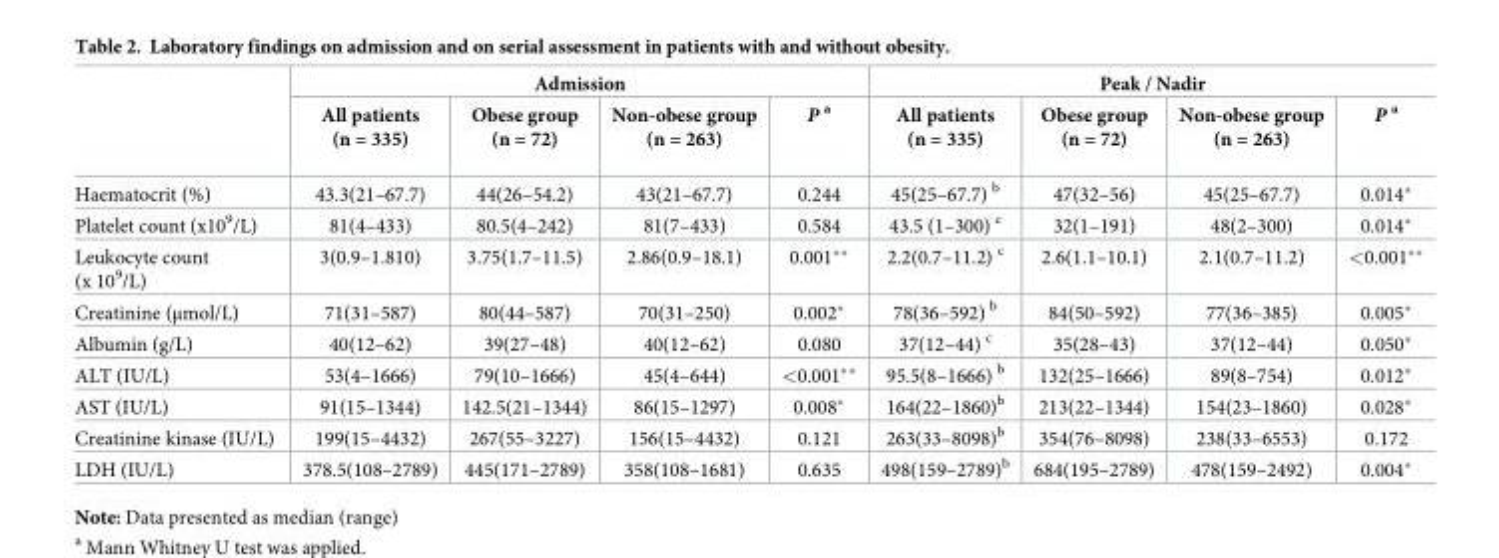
<table><thead><tr><td rowspan="2"></td><td colspan="4">Admission</td><td colspan="4">Peak / Nadir</td></tr><tr><td>All patients (n = 335)</td><td>Obese group (n = 72)</td><td>Non-obese group (n = 263)</td><td>P <sup>a</sup></td><td>All patients (n = 335)</td><td>Obese group (n = 72)</td><td>Non-obese group (n = 263)</td><td>P <sup>a</sup></td></tr></thead><tbody><tr><td>Haematocrit (%)</td><td>43.3(21–67.7)</td><td>44(26–54.2)</td><td>43(21–67.7)</td><td>0.244</td><td>45(25–67.7) <sup>b</sup></td><td>47(32–56)</td><td>45(25–67.7)</td><td>0.014*</td></tr><tr><td>Platelet count (x10<sup>9</sup>/L)</td><td>81(4–433)</td><td>80.5(4–242)</td><td>81(7–433)</td><td>0.584</td><td>43.5 (1–300) <sup>c</sup></td><td>32(1–191)</td><td>48(2–300)</td><td>0.014*</td></tr><tr><td>Leukocyte count (x 10<sup>9</sup>/L)</td><td>3(0.9–1.810)</td><td>3.75(1.7–11.5)</td><td>2.86(0.9–18.1)</td><td>0.001**</td><td>2.2(0.7–11.2) <sup>c</sup></td><td>2.6(1.1–10.1)</td><td>2.1(0.7–11.2)</td><td>&lt;0.001**</td></tr><tr><td>Creatinine (μmol/L)</td><td>71(31–587)</td><td>80(44–587)</td><td>70(31–250)</td><td>0.002*</td><td>78(36–592) <sup>b</sup></td><td>84(50–592)</td><td>77(36–385)</td><td>0.005*</td></tr><tr><td>Albumin (g/L)</td><td>40(12–62)</td><td>39(27–48)</td><td>40(12–62)</td><td>0.080</td><td>37(12–44) <sup>c</sup></td><td>35(28–43)</td><td>37(12–44)</td><td>0.050*</td></tr><tr><td>ALT (IU/L)</td><td>53(4–1666)</td><td>79(10–1666)</td><td>45(4–644)</td><td>&lt;0.001**</td><td>95.5(8–1666) <sup>b</sup></td><td>132(25–1666)</td><td>89(8–754)</td><td>0.012*</td></tr><tr><td>AST (IU/L)</td><td>91(15–1344)</td><td>142.5(21–1344)</td><td>86(15–1297)</td><td>0.008*</td><td>164(22–1860)<sup>b</sup></td><td>213(22–1344)</td><td>154(23–1860)</td><td>0.028*</td></tr><tr><td>Creatinine kinase (IU/L)</td><td>199(15–4432)</td><td>267(55–3227)</td><td>156(15–4432)</td><td>0.121</td><td>263(33–8098)<sup>b</sup></td><td>354(76–8098)</td><td>238(33–6553)</td><td>0.172</td></tr><tr><td>LDH (IU/L)</td><td>378.5(108–2789)</td><td>445(171–2789)</td><td>358(108–1681)</td><td>0.635</td><td>498(159–2789)<sup>b</sup></td><td>684(195–2789)</td><td>478(159–2492)</td><td>0.004*</td></tr></tbody></table>